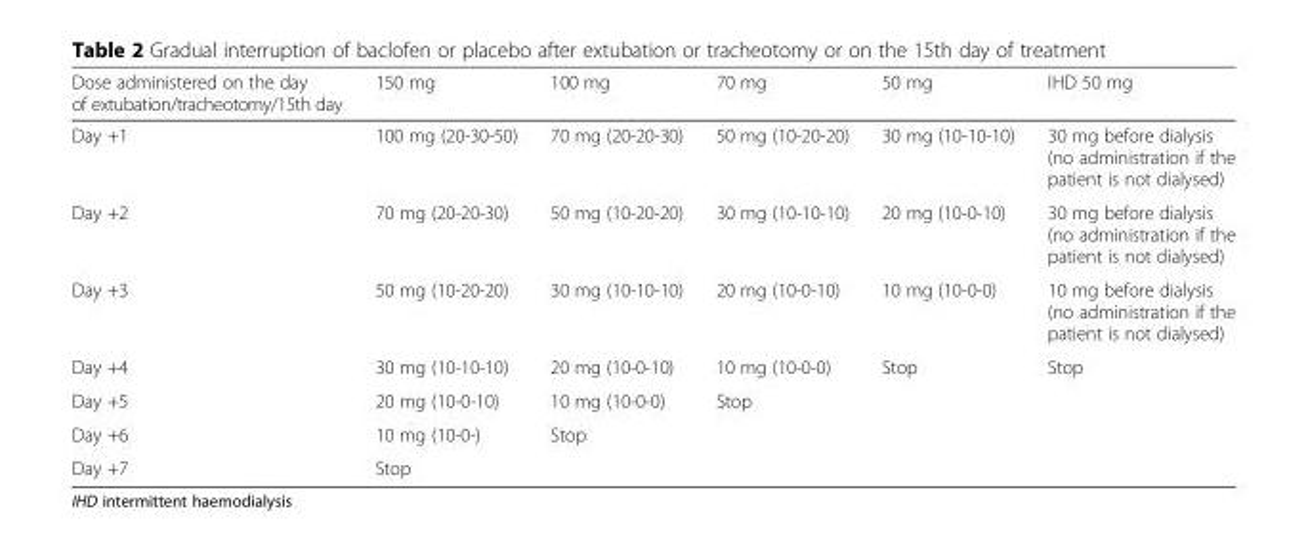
<table><thead><tr><td>Dose administered on the day of extubation/tracheotomy/15th day</td><td>150 mg</td><td>100 mg</td><td>70 mg</td><td>50 mg</td><td>IHD 50 mg</td></tr></thead><tbody><tr><td>Day +1</td><td>100 mg (20-30-50)</td><td>70 mg (20-20-30)</td><td>50 mg (10-20-20)</td><td>30 mg (10-10-10)</td><td>30 mg before dialysis (no administration if the patient is not dialysed)</td></tr><tr><td>Day +2</td><td>70 mg (20-20-30)</td><td>50 mg (10-20-20)</td><td>30 mg (10-10-10)</td><td>20 mg (10-0-10)</td><td>30 mg before dialysis (no administration if the patient is not dialysed)</td></tr><tr><td>Day +3</td><td>50 mg (10-20-20)</td><td>30 mg (10-10-10)</td><td>20 mg (10-0-10)</td><td>10 mg (10-0-0)</td><td>10 mg before dialysis (no administration if the patient is not dialysed)</td></tr><tr><td>Day +4</td><td>30 mg (10-10-10)</td><td>20 mg (10-0-10)</td><td>10 mg (10-0-0)</td><td>Stop</td><td>Stop</td></tr><tr><td>Day +5</td><td>20 mg (10-0-10)</td><td>10 mg (10-0-0)</td><td>Stop</td><td></td><td></td></tr><tr><td>Day +6</td><td>10 mg (10-0-)</td><td>Stop</td><td></td><td></td><td></td></tr><tr><td>Day +7</td><td>Stop</td><td></td><td></td><td></td><td></td></tr></tbody></table>